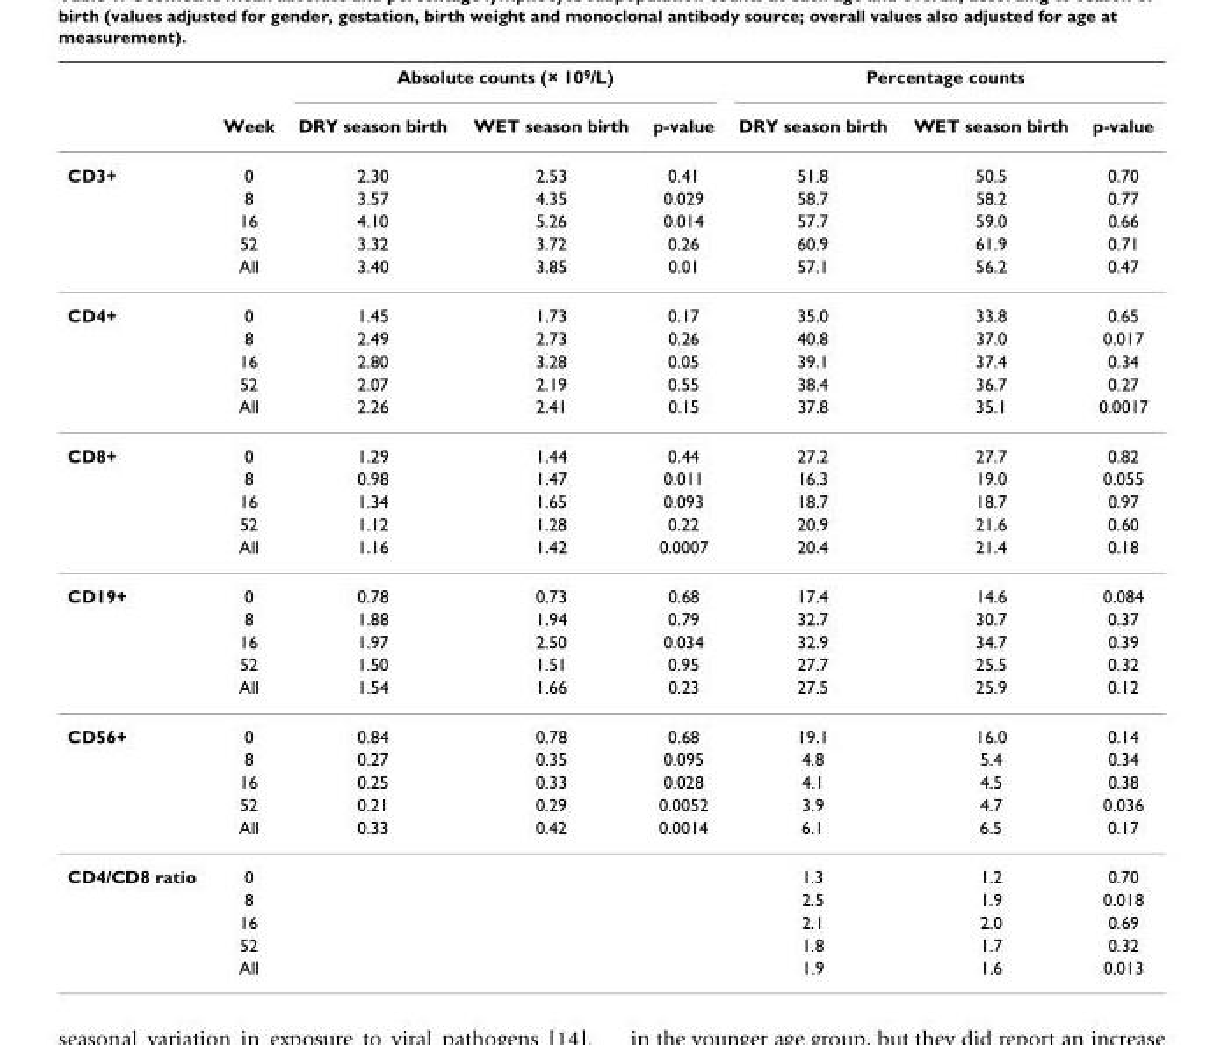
<table><thead><tr><td rowspan="2"></td><td rowspan="2">Week</td><td colspan="3">Absolute counts (× 10<sup>9</sup>/L)</td><td colspan="3">Percentage counts</td></tr><tr><td>DRY season birth</td><td>WET season birth</td><td>p-value</td><td>DRY season birth</td><td>WET season birth</td><td>p-value</td></tr></thead><tbody><tr><td rowspan="5">CD3+</td><td>0</td><td>2.30</td><td>2.53</td><td>0.41</td><td>51.8</td><td>50.5</td><td>0.70</td></tr><tr><td>8</td><td>3.57</td><td>4.35</td><td>0.029</td><td>58.7</td><td>58.2</td><td>0.77</td></tr><tr><td>16</td><td>4.10</td><td>5.26</td><td>0.014</td><td>57.7</td><td>59.0</td><td>0.66</td></tr><tr><td>52</td><td>3.32</td><td>3.72</td><td>0.26</td><td>60.9</td><td>61.9</td><td>0.71</td></tr><tr><td>All</td><td>3.40</td><td>3.85</td><td>0.01</td><td>57.1</td><td>56.2</td><td>0.47</td></tr><tr><td rowspan="5">CD4+</td><td>0</td><td>1.45</td><td>1.73</td><td>0.17</td><td>35.0</td><td>33.8</td><td>0.65</td></tr><tr><td>8</td><td>2.49</td><td>2.73</td><td>0.26</td><td>40.8</td><td>37.0</td><td>0.017</td></tr><tr><td>16</td><td>2.80</td><td>3.28</td><td>0.05</td><td>39.1</td><td>37.4</td><td>0.34</td></tr><tr><td>52</td><td>2.07</td><td>2.19</td><td>0.55</td><td>38.4</td><td>36.7</td><td>0.27</td></tr><tr><td>All</td><td>2.26</td><td>2.41</td><td>0.15</td><td>37.8</td><td>35.1</td><td>0.0017</td></tr><tr><td rowspan="5">CD8+</td><td>0</td><td>1.29</td><td>1.44</td><td>0.44</td><td>27.2</td><td>27.7</td><td>0.82</td></tr><tr><td>8</td><td>0.98</td><td>1.47</td><td>0.011</td><td>16.3</td><td>19.0</td><td>0.055</td></tr><tr><td>16</td><td>1.34</td><td>1.65</td><td>0.093</td><td>18.7</td><td>18.7</td><td>0.97</td></tr><tr><td>52</td><td>1.12</td><td>1.28</td><td>0.22</td><td>20.9</td><td>21.6</td><td>0.60</td></tr><tr><td>All</td><td>1.16</td><td>1.42</td><td>0.0007</td><td>20.4</td><td>21.4</td><td>0.18</td></tr><tr><td rowspan="5">CD19+</td><td>0</td><td>0.78</td><td>0.73</td><td>0.68</td><td>17.4</td><td>14.6</td><td>0.084</td></tr><tr><td>8</td><td>1.88</td><td>1.94</td><td>0.79</td><td>32.7</td><td>30.7</td><td>0.37</td></tr><tr><td>16</td><td>1.97</td><td>2.50</td><td>0.034</td><td>32.9</td><td>34.7</td><td>0.39</td></tr><tr><td>52</td><td>1.50</td><td>1.51</td><td>0.95</td><td>27.7</td><td>25.5</td><td>0.32</td></tr><tr><td>All</td><td>1.54</td><td>1.66</td><td>0.23</td><td>27.5</td><td>25.9</td><td>0.12</td></tr><tr><td rowspan="5">CD56+</td><td>0</td><td>0.84</td><td>0.78</td><td>0.68</td><td>19.1</td><td>16.0</td><td>0.14</td></tr><tr><td>8</td><td>0.27</td><td>0.35</td><td>0.095</td><td>4.8</td><td>5.4</td><td>0.34</td></tr><tr><td>16</td><td>0.25</td><td>0.33</td><td>0.028</td><td>4.1</td><td>4.5</td><td>0.38</td></tr><tr><td>52</td><td>0.21</td><td>0.29</td><td>0.0052</td><td>3.9</td><td>4.7</td><td>0.036</td></tr><tr><td>All</td><td>0.33</td><td>0.42</td><td>0.0014</td><td>6.1</td><td>6.5</td><td>0.17</td></tr><tr><td rowspan="5">CD4/CD8 ratio</td><td>0</td><td></td><td></td><td></td><td>1.3</td><td>1.2</td><td>0.70</td></tr><tr><td>8</td><td></td><td></td><td></td><td>2.5</td><td>1.9</td><td>0.018</td></tr><tr><td>16</td><td></td><td></td><td></td><td>2.1</td><td>2.0</td><td>0.69</td></tr><tr><td>52</td><td></td><td></td><td></td><td>1.8</td><td>1.7</td><td>0.32</td></tr><tr><td>All</td><td></td><td></td><td></td><td>1.9</td><td>1.6</td><td>0.013</td></tr></tbody></table>